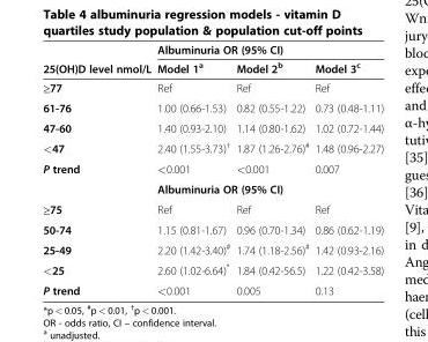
<table><thead><tr><td rowspan="2">25(OH)D level nmol/L</td><td colspan="3">Albuminuria OR (95% CI)</td></tr><tr><td>Model 1<sup>a</sup></td><td>Model 2<sup>b</sup></td><td>Model 3<sup>c</sup></td></tr></thead><tbody><tr><td>≥77</td><td>Ref</td><td>Ref</td><td>Ref</td></tr><tr><td>61-76</td><td>1.00 (0.66-1.53)</td><td>0.82 (0.55-1.22)</td><td>0.73 (0.48-1.11)</td></tr><tr><td>47-60</td><td>1.40 (0.93-2.10)</td><td>1.14 (0.80-1.62)</td><td>1.02 (0.72-1.44)</td></tr><tr><td>&lt;47</td><td>2.40 (1.55-3.73)<sup>†</sup></td><td>1.87 (1.26-2.76)<sup>#</sup></td><td>1.48 (0.96-2.27)</td></tr><tr><td rowspan="2">P trend</td><td>&lt;0.001</td><td>&lt;0.001</td><td>0.007</td></tr><tr><td colspan="3">Albuminuria OR (95% CI)</td></tr><tr><td>≥75</td><td>Ref</td><td>Ref</td><td>Ref</td></tr><tr><td>50-74</td><td>1.15 (0.81-1.67)</td><td>0.96 (0.70-1.34)</td><td>0.86 (0.62-1.19)</td></tr><tr><td>25-49</td><td>2.20 (1.42-3.40)<sup>#</sup></td><td>1.74 (1.18-2.56)<sup>#</sup></td><td>1.42 (0.93-2.16)</td></tr><tr><td>&lt;25</td><td>2.60 (1.02-6.64)*</td><td>1.84 (0.42-56.5)</td><td>1.22 (0.42-3.58)</td></tr><tr><td>P trend</td><td>&lt;0.001</td><td>0.005</td><td>0.13</td></tr></tbody></table>